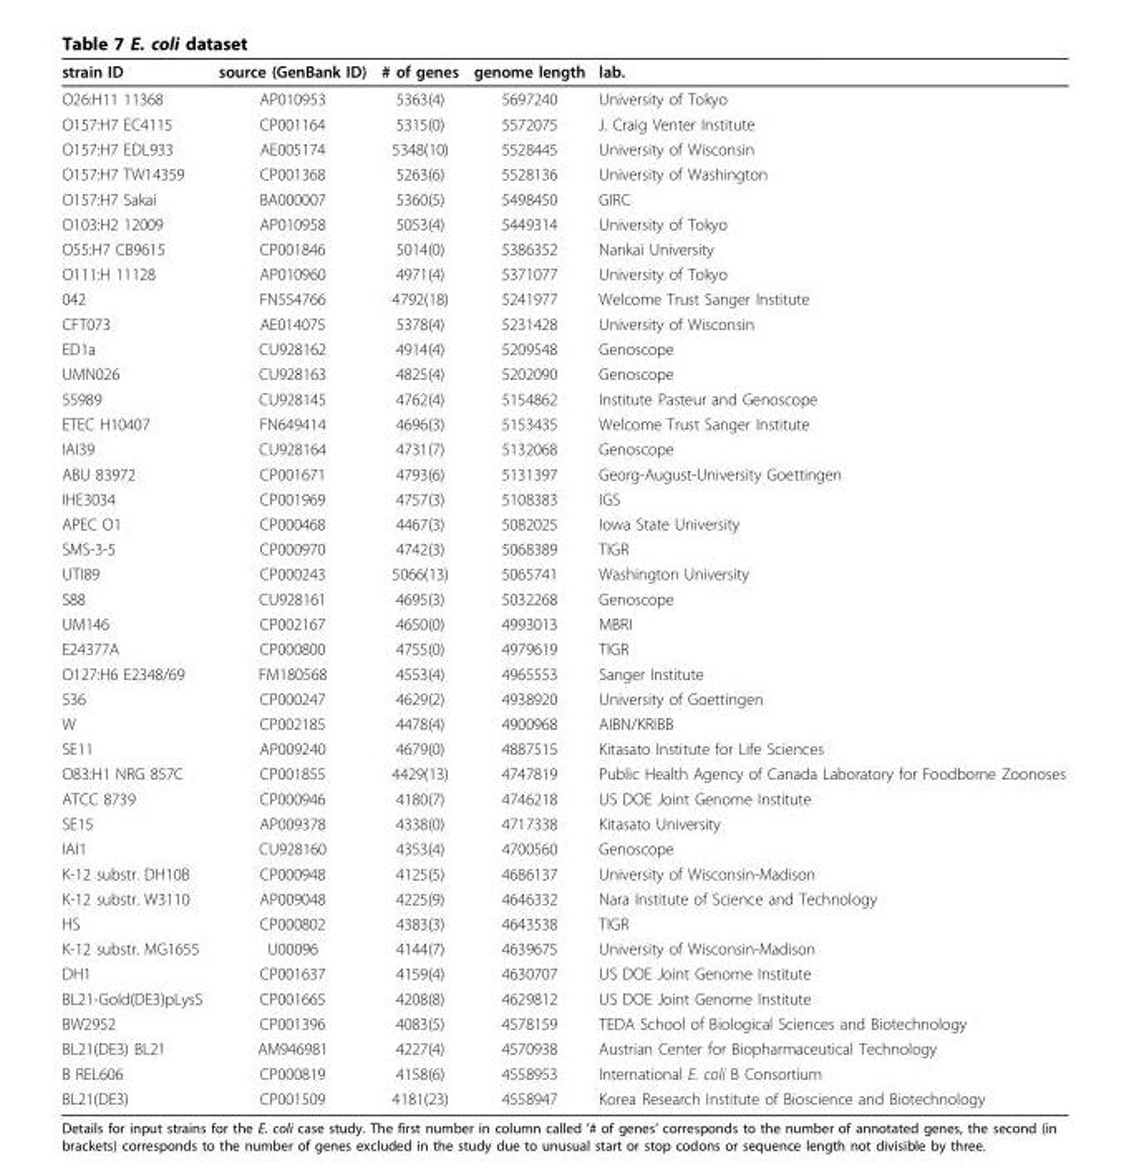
<table><thead><tr><td>strain ID</td><td>source (GenBank ID)</td><td># of genes</td><td>genome length</td><td>lab.</td></tr></thead><tbody><tr><td>O26:H11 11368</td><td>AP010953</td><td>5363(4)</td><td>5697240</td><td>University of Tokyo</td></tr><tr><td>O157:H7 EC4115</td><td>CP001164</td><td>5315(0)</td><td>5572075</td><td>J. Craig Venter Institute</td></tr><tr><td>O157:H7 EDL933</td><td>AE005174</td><td>5348(10)</td><td>5528445</td><td>University of Wisconsin</td></tr><tr><td>O157:H7 TW14359</td><td>CP001368</td><td>5263(6)</td><td>5528136</td><td>University of Washington</td></tr><tr><td>O157:H7 Sakai</td><td>BA000007</td><td>5360(5)</td><td>5498450</td><td>GIRC</td></tr><tr><td>O103:H2 12009</td><td>AP010958</td><td>5053(4)</td><td>5449314</td><td>University of Tokyo</td></tr><tr><td>O55:H7 CB9615</td><td>CP001846</td><td>5014(0)</td><td>5386352</td><td>Nankai University</td></tr><tr><td>O111:H 11128</td><td>AP010960</td><td>4971(4)</td><td>5371077</td><td>University of Tokyo</td></tr><tr><td>042</td><td>FN554766</td><td>4792(18)</td><td>5241977</td><td>Welcome Trust Sanger Institute</td></tr><tr><td>CFT073</td><td>AE014075</td><td>5378(4)</td><td>5231428</td><td>University of Wisconsin</td></tr><tr><td>ED1a</td><td>CU928162</td><td>4914(4)</td><td>5209548</td><td>Genoscope</td></tr><tr><td>UMN026</td><td>CU928163</td><td>4825(4)</td><td>5202090</td><td>Genoscope</td></tr><tr><td>55989</td><td>CU928145</td><td>4762(4)</td><td>5154862</td><td>Institute Pasteur and Genoscope</td></tr><tr><td>ETEC H10407</td><td>FN649414</td><td>4696(3)</td><td>5153435</td><td>Welcome Trust Sanger Institute</td></tr><tr><td>IAI39</td><td>CU928164</td><td>4731(7)</td><td>5132068</td><td>Genoscope</td></tr><tr><td>ABU 83972</td><td>CP001671</td><td>4793(6)</td><td>5131397</td><td>Georg-August-University Goettingen</td></tr><tr><td>IHE3034</td><td>CP001969</td><td>4757(3)</td><td>5108383</td><td>IGS</td></tr><tr><td>APEC O1</td><td>CP000468</td><td>4467(3)</td><td>5082025</td><td>Iowa State University</td></tr><tr><td>SMS-3-5</td><td>CP000970</td><td>4742(3)</td><td>5068389</td><td>TIGR</td></tr><tr><td>UTI89</td><td>CP000243</td><td>5066(13)</td><td>5065741</td><td>Washington University</td></tr><tr><td>S88</td><td>CU928161</td><td>4695(3)</td><td>5032268</td><td>Genoscope</td></tr><tr><td>UM146</td><td>CP002167</td><td>4650(0)</td><td>4993013</td><td>MBRI</td></tr><tr><td>E24377A</td><td>CP000800</td><td>4755(0)</td><td>4979619</td><td>TIGR</td></tr><tr><td>O127:H6 E2348/69</td><td>FM180568</td><td>4553(4)</td><td>4965553</td><td>Sanger Institute</td></tr><tr><td>536</td><td>CP000247</td><td>4629(2)</td><td>4938920</td><td>University of Goettingen</td></tr><tr><td>W</td><td>CP002185</td><td>4478(4)</td><td>4900968</td><td>AIBN/KRIBB</td></tr><tr><td>SE11</td><td>AP009240</td><td>4679(0)</td><td>4887515</td><td>Kitasato Institute for Life Sciences</td></tr><tr><td>O83:H1 NRG 857C</td><td>CP001855</td><td>4429(13)</td><td>4747819</td><td>Public Health Agency of Canada Laboratory for Foodborne Zoonoses</td></tr><tr><td>ATCC 8739</td><td>CP000946</td><td>4180(7)</td><td>4746218</td><td>US DOE Joint Genome Institute</td></tr><tr><td>SE15</td><td>AP009378</td><td>4338(0)</td><td>4717338</td><td>Kitasato University</td></tr><tr><td>IAI1</td><td>CU928160</td><td>4353(4)</td><td>4700560</td><td>Genoscope</td></tr><tr><td>K-12 substr. DH10B</td><td>CP000948</td><td>4125(5)</td><td>4686137</td><td>University of Wisconsin-Madison</td></tr><tr><td>K-12 substr. W3110</td><td>AP009048</td><td>4225(9)</td><td>4646332</td><td>Nara Institute of Science and Technology</td></tr><tr><td>HS</td><td>CP000802</td><td>4383(3)</td><td>4643538</td><td>TIGR</td></tr><tr><td>K-12 substr. MG1655</td><td>U00096</td><td>4144(7)</td><td>4639675</td><td>University of Wisconsin-Madison</td></tr><tr><td>DH1</td><td>CP001637</td><td>4159(4)</td><td>4630707</td><td>US DOE Joint Genome Institute</td></tr><tr><td>BL21-Gold(DE3)pLysS</td><td>CP001665</td><td>4208(8)</td><td>4629812</td><td>US DOE Joint Genome Institute</td></tr><tr><td>BW2952</td><td>CP001396</td><td>4083(5)</td><td>4578159</td><td>TEDA School of Biological Sciences and Biotechnology</td></tr><tr><td>BL21(DE3) BL21</td><td>AM946981</td><td>4227(4)</td><td>4570938</td><td>Austrian Center for Biopharmaceutical Technology</td></tr><tr><td>B REL606</td><td>CP000819</td><td>4158(6)</td><td>4558953</td><td>International E. coli B Consortium</td></tr><tr><td>BL21(DE3)</td><td>CP001509</td><td>4181(23)</td><td>4558947</td><td>Korea Research Institute of Bioscience and Biotechnology</td></tr></tbody></table>